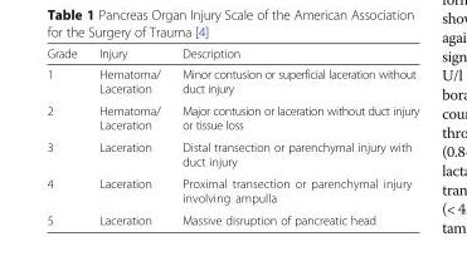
<table><thead><tr><td>Grade</td><td>Injury</td><td>Description</td></tr></thead><tbody><tr><td>1</td><td>Hematoma/ Laceration</td><td>Minor contusion or superficial laceration without duct injury</td></tr><tr><td>2</td><td>Hematoma/ Laceration</td><td>Major contusion or laceration without duct injury or tissue loss</td></tr><tr><td>3</td><td>Laceration</td><td>Distal transection or parenchymal injury with duct injury</td></tr><tr><td>4</td><td>Laceration</td><td>Proximal transection or parenchymal injury involving ampulla</td></tr><tr><td>5</td><td>Laceration</td><td>Massive disruption of pancreatic head</td></tr></tbody></table>